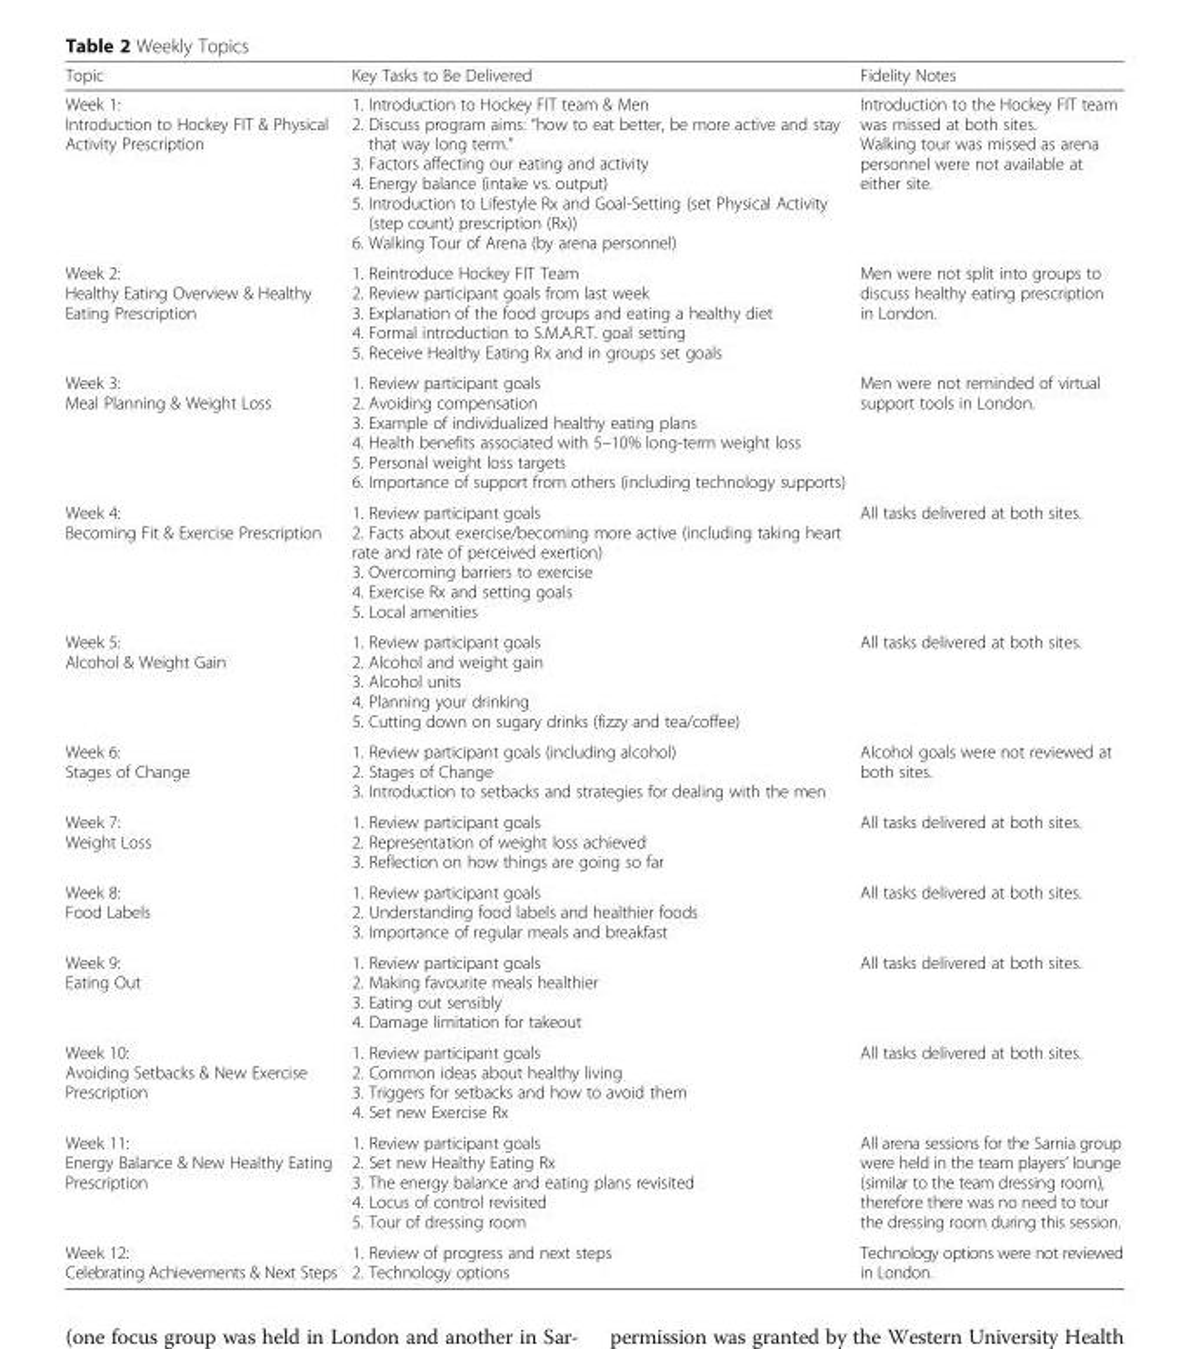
<table><thead><tr><td>Topic</td><td>Key Tasks to Be Delivered</td><td>Fidelity Notes</td></tr></thead><tbody><tr><td>Week 1: Introduction to Hockey FIT &amp; Physical Activity Prescription</td><td>1. Introduction to Hockey FIT team &amp; Men 2. Discuss program aims: “how to eat better, be more active and stay that way long term.” 3. Factors affecting our eating and activity 4. Energy balance (intake vs. output) 5. Introduction to Lifestyle Rx and Goal-Setting (set Physical Activity (step count) prescription (Rx)) 6. Walking Tour of Arena (by arena personnel)</td><td>Introduction to the Hockey FIT team was missed at both sites. Walking tour was missed as arena personnel were not available at either site.</td></tr><tr><td>Week 2: Healthy Eating Overview &amp; Healthy Eating Prescription</td><td>1. Reintroduce Hockey FIT Team 2. Review participant goals from last week 3. Explanation of the food groups and eating a healthy diet 4. Formal introduction to S.M.A.R.T. goal setting 5. Receive Healthy Eating Rx and in groups set goals</td><td>Men were not split into groups to discuss healthy eating prescription in London.</td></tr><tr><td>Week 3: Meal Planning &amp; Weight Loss</td><td>1. Review participant goals 2. Avoiding compensation 3. Example of individualized healthy eating plans 4. Health benefits associated with 5–10% long-term weight loss 5. Personal weight loss targets 6. Importance of support from others (including technology supports)</td><td>Men were not reminded of virtual support tools in London.</td></tr><tr><td>Week 4: Becoming Fit &amp; Exercise Prescription</td><td>1. Review participant goals 2. Facts about exercise/becoming more active (including taking heart rate and rate of perceived exertion) 3. Overcoming barriers to exercise 4. Exercise Rx and setting goals 5. Local amenities</td><td>All tasks delivered at both sites.</td></tr><tr><td>Week 5: Alcohol &amp; Weight Gain</td><td>1. Review participant goals 2. Alcohol and weight gain 3. Alcohol units 4. Planning your drinking 5. Cutting down on sugary drinks (fizzy and tea/coffee)</td><td>All tasks delivered at both sites.</td></tr><tr><td>Week 6: Stages of Change</td><td>1. Review participant goals (including alcohol) 2. Stages of Change 3. Introduction to setbacks and strategies for dealing with the men</td><td>Alcohol goals were not reviewed at both sites.</td></tr><tr><td>Week 7: Weight Loss</td><td>1. Review participant goals 2. Representation of weight loss achieved 3. Reflection on how things are going so far</td><td>All tasks delivered at both sites.</td></tr><tr><td>Week 8: Food Labels</td><td>1. Review participant goals 2. Understanding food labels and healthier foods 3. Importance of regular meals and breakfast</td><td>All tasks delivered at both sites.</td></tr><tr><td>Week 9: Eating Out</td><td>1. Review participant goals 2. Making favourite meals healthier 3. Eating out sensibly 4. Damage limitation for takeout</td><td>All tasks delivered at both sites.</td></tr><tr><td>Week 10: Avoiding Setbacks &amp; New Exercise Prescription</td><td>1. Review participant goals 2. Common ideas about healthy living 3. Triggers for setbacks and how to avoid them 4. Set new Exercise Rx</td><td>All tasks delivered at both sites.</td></tr><tr><td>Week 11: Energy Balance &amp; New Healthy Eating Prescription</td><td>1. Review participant goals 2. Set new Healthy Eating Rx 3. The energy balance and eating plans revisited 4. Locus of control revisited 5. Tour of dressing room</td><td>All arena sessions for the Sarnia group were held in the team players’ lounge (similar to the team dressing room), therefore there was no need to tour the dressing room during this session.</td></tr><tr><td>Week 12: Celebrating Achievements &amp; Next Steps</td><td>1. Review of progress and next steps 2. Technology options</td><td>Technology options were not reviewed in London.</td></tr></tbody></table>